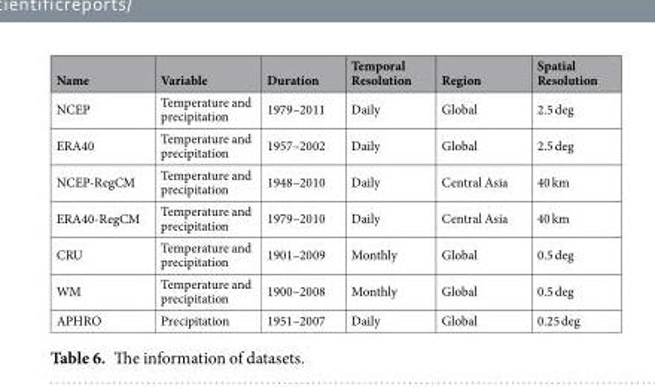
<table><thead><tr><td>Name</td><td>Variable</td><td>Duration</td><td>Temporal Resolution</td><td>Region</td><td>Spatial Resolution</td></tr></thead><tbody><tr><td>NCEP</td><td>Temperature and precipitation</td><td>1979–2011</td><td>Daily</td><td>Global</td><td>2.5 deg</td></tr><tr><td>ERA40</td><td>Temperature and precipitation</td><td>1957–2002</td><td>Daily</td><td>Global</td><td>2.5 deg</td></tr><tr><td>NCEP-RegCM</td><td>Temperature and precipitation</td><td>1948–2010</td><td>Daily</td><td>Central Asia</td><td>40 km</td></tr><tr><td>ERA40-RegCM</td><td>Temperature and precipitation</td><td>1979–2010</td><td>Daily</td><td>Central Asia</td><td>40 km</td></tr><tr><td>CRU</td><td>Temperature and precipitation</td><td>1901–2009</td><td>Monthly</td><td>Global</td><td>0.5 deg</td></tr><tr><td>WM</td><td>Temperature and precipitation</td><td>1900–2008</td><td>Monthly</td><td>Global</td><td>0.5 deg</td></tr><tr><td>APHRO</td><td>Precipitation</td><td>1951–2007</td><td>Daily</td><td>Global</td><td>0.25 deg</td></tr></tbody></table>